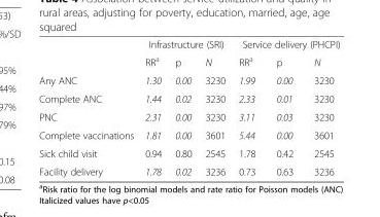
<table><thead><tr><td rowspan="2"></td><td colspan="3">Infrastructure (SRI)</td><td colspan="3">Service delivery (PHCPI)</td></tr><tr><td>RR<sup>a</sup></td><td>p</td><td>N</td><td>RR<sup>a</sup></td><td>p</td><td>N</td></tr></thead><tbody><tr><td>Any ANC</td><td>1.30</td><td>0.00</td><td>3230</td><td>1.99</td><td>0.00</td><td>3230</td></tr><tr><td>Complete ANC</td><td>1.44</td><td>0.02</td><td>3230</td><td>2.33</td><td>0.01</td><td>3230</td></tr><tr><td>PNC</td><td>2.31</td><td>0.00</td><td>3230</td><td>3.11</td><td>0.03</td><td>3230</td></tr><tr><td>Complete vaccinations</td><td>1.81</td><td>0.00</td><td>3601</td><td>5.44</td><td>0.00</td><td>3601</td></tr><tr><td>Sick child visit</td><td>0.94</td><td>0.80</td><td>2545</td><td>1.78</td><td>0.42</td><td>2545</td></tr><tr><td>Facility delivery</td><td>1.78</td><td>0.02</td><td>3236</td><td>0.73</td><td>0.63</td><td>3236</td></tr></tbody></table>